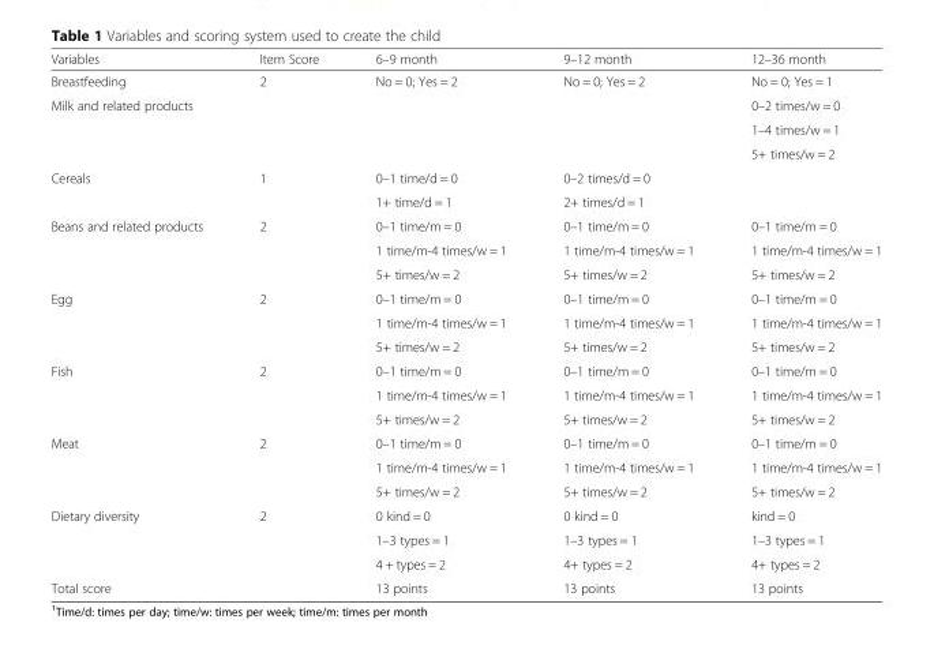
<table><thead><tr><td>Variables</td><td>Item Score</td><td>6–9 month</td><td>9–12 month</td><td>12–36 month</td></tr></thead><tbody><tr><td>Breastfeeding</td><td>2</td><td>No = 0; Yes = 2</td><td>No = 0; Yes = 2</td><td>No = 0; Yes = 1</td></tr><tr><td rowspan="3">Milk and related products</td><td rowspan="3"></td><td rowspan="3"></td><td rowspan="3"></td><td>0–2 times/w = 0</td></tr><tr><td>1–4 times/w = 1</td></tr><tr><td>5+ times/w = 2</td></tr><tr><td rowspan="2">Cereals</td><td rowspan="2">1</td><td>0–1 time/d = 0</td><td>0–2 times/d = 0</td><td rowspan="2"></td></tr><tr><td>1+ time/d = 1</td><td>2+ times/d = 1</td></tr><tr><td rowspan="3">Beans and related products</td><td rowspan="3">2</td><td>0–1 time/m = 0</td><td>0–1 time/m = 0</td><td>0–1 time/m = 0</td></tr><tr><td>1 time/m-4 times/w = 1</td><td>1 time/m-4 times/w = 1</td><td>1 time/m-4 times/w = 1</td></tr><tr><td>5+ times/w = 2</td><td>5+ times/w = 2</td><td>5+ times/w = 2</td></tr><tr><td rowspan="3">Egg</td><td rowspan="3">2</td><td>0–1 time/m = 0</td><td>0–1 time/m = 0</td><td>0–1 time/m = 0</td></tr><tr><td>1 time/m-4 times/w = 1</td><td>1 time/m-4 times/w = 1</td><td>1 time/m-4 times/w = 1</td></tr><tr><td>5+ times/w = 2</td><td>5+ times/w = 2</td><td>5+ times/w = 2</td></tr><tr><td rowspan="3">Fish</td><td rowspan="3">2</td><td>0–1 time/m = 0</td><td>0–1 time/m = 0</td><td>0–1 time/m = 0</td></tr><tr><td>1 time/m-4 times/w = 1</td><td>1 time/m-4 times/w = 1</td><td>1 time/m-4 times/w = 1</td></tr><tr><td>5+ times/w = 2</td><td>5+ times/w = 2</td><td>5+ times/w = 2</td></tr><tr><td rowspan="3">Meat</td><td rowspan="3">2</td><td>0–1 time/m = 0</td><td>0–1 time/m = 0</td><td>0–1 time/m = 0</td></tr><tr><td>1 time/m-4 times/w = 1</td><td>1 time/m-4 times/w = 1</td><td>1 time/m-4 times/w = 1</td></tr><tr><td>5+ times/w = 2</td><td>5+ times/w = 2</td><td>5+ times/w = 2</td></tr><tr><td rowspan="3">Dietary diversity</td><td rowspan="3">2</td><td>0 kind = 0</td><td>0 kind = 0</td><td>kind = 0</td></tr><tr><td>1–3 types = 1</td><td>1–3 types = 1</td><td>1–3 types = 1</td></tr><tr><td>4 + types = 2</td><td>4+ types = 2</td><td>4+ types = 2</td></tr><tr><td>Total score</td><td></td><td>13 points</td><td>13 points</td><td>13 points</td></tr></tbody></table>